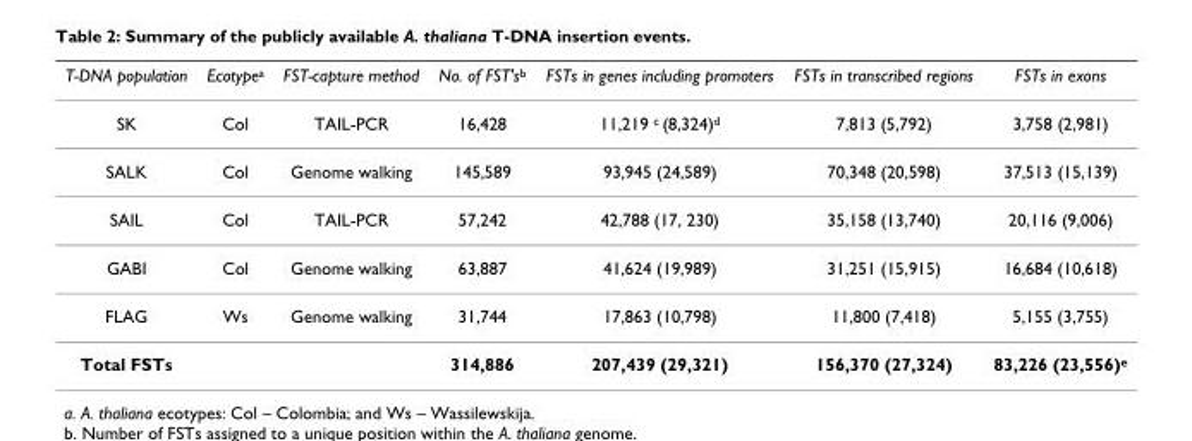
<table><thead><tr><td>T-DNA population</td><td>Ecotype<sup>a</sup></td><td>FST-capture method</td><td>No. of FST&#x27;s<sup>b</sup></td><td>FSTs in genes including promoters</td><td>FSTs in transcribed regions</td><td>FSTs in exons</td></tr></thead><tbody><tr><td>SK</td><td>Col</td><td>TAIL-PCR</td><td>16,428</td><td>11,219 <sup>c</sup> (8,324)<sup>d</sup></td><td>7,813 (5,792)</td><td>3,758 (2,981)</td></tr><tr><td>SALK</td><td>Col</td><td>Genome walking</td><td>145,589</td><td>93,945 (24,589)</td><td>70,348 (20,598)</td><td>37,513 (15,139)</td></tr><tr><td>SAIL</td><td>Col</td><td>TAIL-PCR</td><td>57,242</td><td>42,788 (17, 230)</td><td>35,158 (13,740)</td><td>20,116 (9,006)</td></tr><tr><td>GABI</td><td>Col</td><td>Genome walking</td><td>63,887</td><td>41,624 (19,989)</td><td>31,251 (15,915)</td><td>16,684 (10,618)</td></tr><tr><td>FLAG</td><td>Ws</td><td>Genome walking</td><td>31,744</td><td>17,863 (10,798)</td><td>11,800 (7,418)</td><td>5,155 (3,755)</td></tr><tr><td>Total FSTs</td><td></td><td></td><td>314,886</td><td>207,439 (29,321)</td><td>156,370 (27,324)</td><td>83,226 (23,556)<sup>e</sup></td></tr></tbody></table>